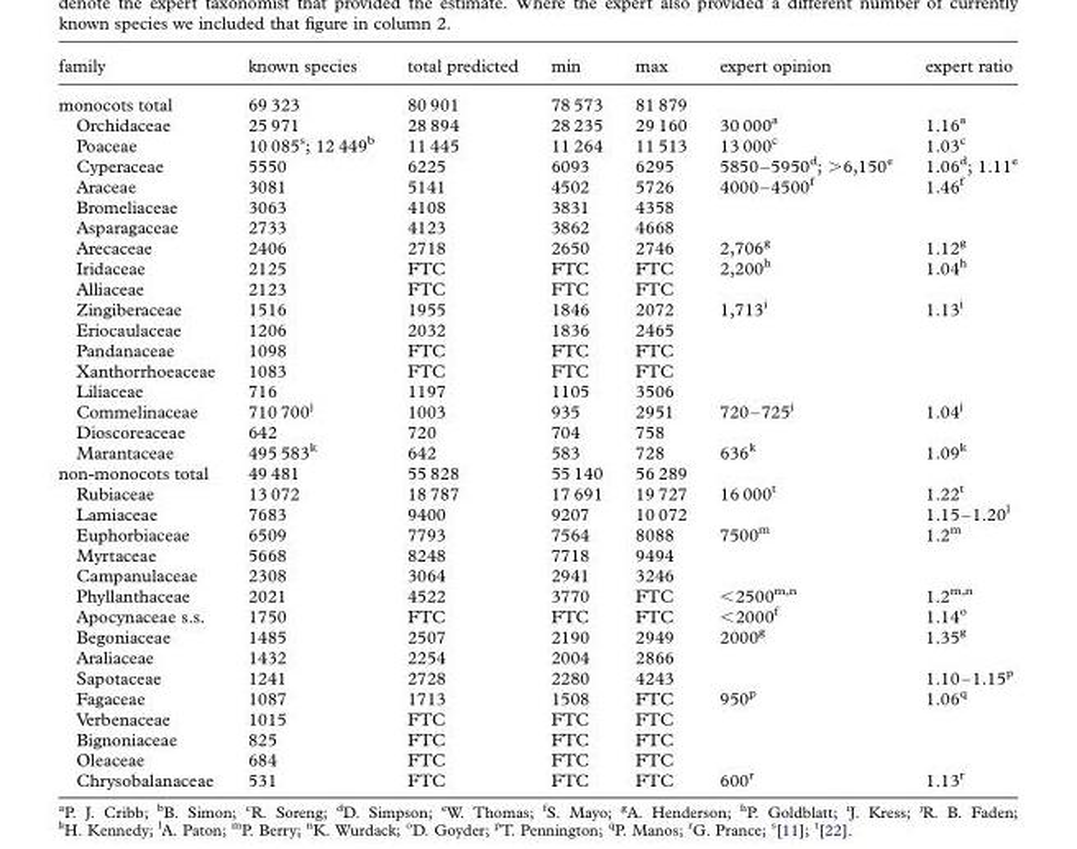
<table><thead><tr><td>family</td><td>known species</td><td>total predicted</td><td>min</td><td>max</td><td>expert opinion</td><td>expert ratio</td></tr></thead><tbody><tr><td>monocots total</td><td>69 323</td><td>80 901</td><td>78 573</td><td>81 879</td><td></td><td></td></tr><tr><td>Orchidaceae</td><td>25 971</td><td>28 894</td><td>28 235</td><td>29 160</td><td>30 000<sup>a</sup></td><td>1.16<sup>a</sup></td></tr><tr><td>Poaceae</td><td>10 085<sup>s</sup>; 12 449<sup>b</sup></td><td>11 445</td><td>11 264</td><td>11 513</td><td>13 000<sup>c</sup></td><td>1.03<sup>c</sup></td></tr><tr><td>Cyperaceae</td><td>5550</td><td>6225</td><td>6093</td><td>6295</td><td>5850–5950<sup>d</sup>; &gt;6,150<sup>e</sup></td><td>1.06<sup>d</sup>; 1.11<sup>e</sup></td></tr><tr><td>Araceae</td><td>3081</td><td>5141</td><td>4502</td><td>5726</td><td>4000–4500<sup>f</sup></td><td>1.46<sup>f</sup></td></tr><tr><td>Bromeliaceae</td><td>3063</td><td>4108</td><td>3831</td><td>4358</td><td></td><td></td></tr><tr><td>Asparagaceae</td><td>2733</td><td>4123</td><td>3862</td><td>4668</td><td></td><td></td></tr><tr><td>Arecaceae</td><td>2406</td><td>2718</td><td>2650</td><td>2746</td><td>2,706<sup>g</sup></td><td>1.12<sup>g</sup></td></tr><tr><td>Iridaceae</td><td>2125</td><td>FTC</td><td>FTC</td><td>FTC</td><td>2,200<sup>h</sup></td><td>1.04<sup>h</sup></td></tr><tr><td>Alliaceae</td><td>2123</td><td>FTC</td><td>FTC</td><td>FTC</td><td></td><td></td></tr><tr><td>Zingiberaceae</td><td>1516</td><td>1955</td><td>1846</td><td>2072</td><td>1,713<sup>i</sup></td><td>1.13<sup>i</sup></td></tr><tr><td>Eriocaulaceae</td><td>1206</td><td>2032</td><td>1836</td><td>2465</td><td></td><td></td></tr><tr><td>Pandanaceae</td><td>1098</td><td>FTC</td><td>FTC</td><td>FTC</td><td></td><td></td></tr><tr><td>Xanthorrhoeaceae</td><td>1083</td><td>FTC</td><td>FTC</td><td>FTC</td><td></td><td></td></tr><tr><td>Liliaceae</td><td>716</td><td>1197</td><td>1105</td><td>3506</td><td></td><td></td></tr><tr><td>Commelinaceae</td><td>710 700<sup>j</sup></td><td>1003</td><td>935</td><td>2951</td><td>720–725<sup>j</sup></td><td>1.04<sup>j</sup></td></tr><tr><td>Dioscoreaceae</td><td>642</td><td>720</td><td>704</td><td>758</td><td></td><td></td></tr><tr><td>Marantaceae</td><td>495 583<sup>k</sup></td><td>642</td><td>583</td><td>728</td><td>636<sup>k</sup></td><td>1.09<sup>k</sup></td></tr><tr><td>non-monocots total</td><td>49 481</td><td>55 828</td><td>55 140</td><td>56 289</td><td></td><td></td></tr><tr><td>Rubiaceae</td><td>13 072</td><td>18 787</td><td>17 691</td><td>19 727</td><td>16 000<sup>t</sup></td><td>1.22<sup>t</sup></td></tr><tr><td>Lamiaceae</td><td>7683</td><td>9400</td><td>9207</td><td>10 072</td><td></td><td>1.15–1.20<sup>l</sup></td></tr><tr><td>Euphorbiaceae</td><td>6509</td><td>7793</td><td>7564</td><td>8088</td><td>7500<sup>m</sup></td><td>1.2<sup>m</sup></td></tr><tr><td>Myrtaceae</td><td>5668</td><td>8248</td><td>7718</td><td>9494</td><td></td><td></td></tr><tr><td>Campanulaceae</td><td>2308</td><td>3064</td><td>2941</td><td>3246</td><td></td><td></td></tr><tr><td>Phyllanthaceae</td><td>2021</td><td>4522</td><td>3770</td><td>FTC</td><td>&lt;2500<sup>m,n</sup></td><td>1.2<sup>m,n</sup></td></tr><tr><td>Apocynaceae s.s.</td><td>1750</td><td>FTC</td><td>FTC</td><td>FTC</td><td>&lt;2000<sup>f</sup></td><td>1.14<sup>o</sup></td></tr><tr><td>Begoniaceae</td><td>1485</td><td>2507</td><td>2190</td><td>2949</td><td>2000<sup>g</sup></td><td>1.35<sup>g</sup></td></tr><tr><td>Araliaceae</td><td>1432</td><td>2254</td><td>2004</td><td>2866</td><td></td><td></td></tr><tr><td>Sapotaceae</td><td>1241</td><td>2728</td><td>2280</td><td>4243</td><td></td><td>1.10–1.15<sup>p</sup></td></tr><tr><td>Fagaceae</td><td>1087</td><td>1713</td><td>1508</td><td>FTC</td><td>950<sup>p</sup></td><td>1.06<sup>q</sup></td></tr><tr><td>Verbenaceae</td><td>1015</td><td>FTC</td><td>FTC</td><td>FTC</td><td></td><td></td></tr><tr><td>Bignoniaceae</td><td>825</td><td>FTC</td><td>FTC</td><td>FTC</td><td></td><td></td></tr><tr><td>Oleaceae</td><td>684</td><td>FTC</td><td>FTC</td><td>FTC</td><td></td><td></td></tr><tr><td>Chrysobalanaceae</td><td>531</td><td>FTC</td><td>FTC</td><td>FTC</td><td>600<sup>r</sup></td><td>1.13<sup>r</sup></td></tr></tbody></table>